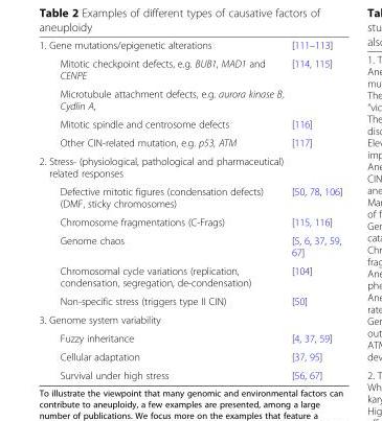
<table><tbody><tr><td>1. Gene mutations/epigenetic alterations</td><td>[111–113]</td></tr><tr><td>Mitotic checkpoint defects, e.g. BUB1, MAD1 and CENPE</td><td>[114, 115]</td></tr><tr><td colspan="2">Microtubule attachment defects, e.g. aurora kinase B, Cydlin A,</td></tr><tr><td>Mitotic spindle and centrosome defects</td><td>[116]</td></tr><tr><td>Other CIN-related mutation, e.g. p53, ATM</td><td>[117]</td></tr><tr><td colspan="2">2. Stress- (physiological, pathological and pharmaceutical) related responses</td></tr><tr><td>Defective mitotic figures (condensation defects) (DMF, sticky chromosomes)</td><td>[50, 78, 106]</td></tr><tr><td>Chromosome fragmentations (C-Frags)</td><td>[115, 116]</td></tr><tr><td>Genome chaos</td><td>[5, 6, 37, 59, 67]</td></tr><tr><td>Chromosomal cycle variations (replication, condensation, segregation, de-condensation)</td><td>[104]</td></tr><tr><td>Non-specific stress (triggers type II CIN)</td><td>[50]</td></tr><tr><td colspan="2">3. Genome system variability</td></tr><tr><td>Fuzzy inheritance</td><td>[4, 37, 59]</td></tr><tr><td>Cellular adaptation</td><td>[37, 95]</td></tr><tr><td>Survival under high stress</td><td>[56, 67]</td></tr></tbody></table>